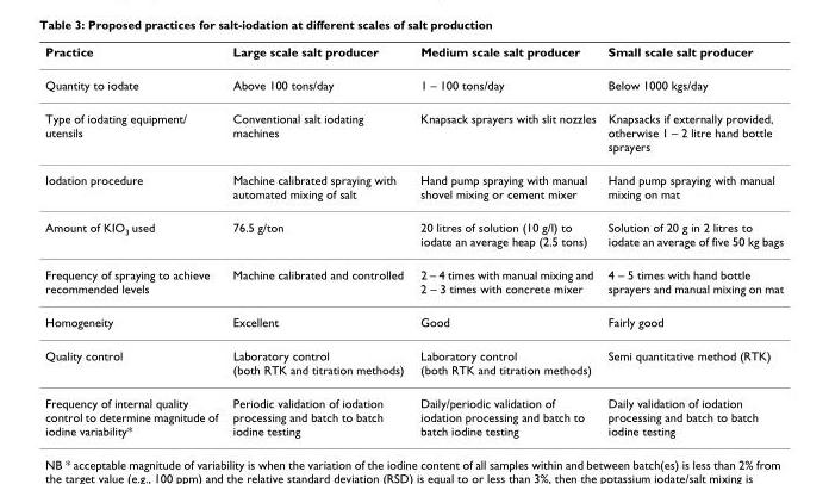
<table><thead><tr><td>Practice</td><td>Large scale salt producer</td><td>Medium scale salt producer</td><td>Small scale salt producer</td></tr></thead><tbody><tr><td>Quantity to iodate</td><td>Above 100 tons/day</td><td>1 – 100 tons/day</td><td>Below 1000 kgs/day</td></tr><tr><td>Type of iodating equipment/ utensils</td><td>Conventional salt iodating machines</td><td>Knapsack sprayers with slit nozzles</td><td>Knapsacks if externally provided, otherwise 1 – 2 litre hand bottle sprayers</td></tr><tr><td>Iodation procedure</td><td>Machine calibrated spraying with automated mixing of salt</td><td>Hand pump spraying with manual shovel mixing or cement mixer</td><td>Hand pump spraying with manual mixing on mat</td></tr><tr><td>Amount of KIO<sub>3</sub> used</td><td>76.5 g/ton</td><td>20 litres of solution (10 g/l) to iodate an average heap (2.5 tons)</td><td>Solution of 20 g in 2 litres to iodate an average of five 50 kg bags</td></tr><tr><td>Frequency of spraying to achieve recommended levels</td><td>Machine calibrated and controlled</td><td>2 – 4 times with manual mixing and 2 – 3 times with concrete mixer</td><td>4 – 5 times with hand bottle sprayers and manual mixing on mat</td></tr><tr><td>Homogeneity</td><td>Excellent</td><td>Good</td><td>Fairly good</td></tr><tr><td>Quality control</td><td>Laboratory control (both RTK and titration methods)</td><td>Laboratory control (both RTK and titration methods)</td><td>Semi quantitative method (RTK)</td></tr><tr><td>Frequency of internal quality control to determine magnitude of iodine variability*</td><td>Periodic validation of iodation processing and batch to batch iodine testing</td><td>Daily/periodic validation of iodation processing and batch to batch iodine testing</td><td>Daily validation of iodation processing and batch to batch iodine testing</td></tr></tbody></table>